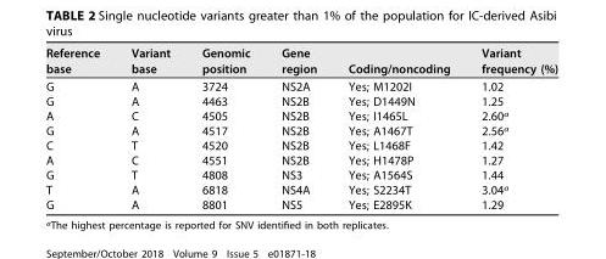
<table><thead><tr><td>Reference base</td><td>Variant base</td><td>Genomic position</td><td>Gene region</td><td>Coding/noncoding</td><td>Variant frequency (%)</td></tr></thead><tbody><tr><td>G</td><td>A</td><td>3724</td><td>NS2A</td><td>Yes; M1202I</td><td>1.02</td></tr><tr><td>G</td><td>A</td><td>4463</td><td>NS2B</td><td>Yes; D1449N</td><td>1.25</td></tr><tr><td>A</td><td>C</td><td>4505</td><td>NS2B</td><td>Yes; I1465L</td><td>2.60<sup>a</sup></td></tr><tr><td>G</td><td>A</td><td>4517</td><td>NS2B</td><td>Yes; A1467T</td><td>2.56<sup>a</sup></td></tr><tr><td>C</td><td>T</td><td>4520</td><td>NS2B</td><td>Yes; L1468F</td><td>1.42</td></tr><tr><td>A</td><td>C</td><td>4551</td><td>NS2B</td><td>Yes; H1478P</td><td>1.27</td></tr><tr><td>G</td><td>T</td><td>4808</td><td>NS3</td><td>Yes; A1564S</td><td>1.44</td></tr><tr><td>T</td><td>A</td><td>6818</td><td>NS4A</td><td>Yes; S2234T</td><td>3.04<sup>a</sup></td></tr><tr><td>G</td><td>A</td><td>8801</td><td>NS5</td><td>Yes; E2895K</td><td>1.29</td></tr></tbody></table>